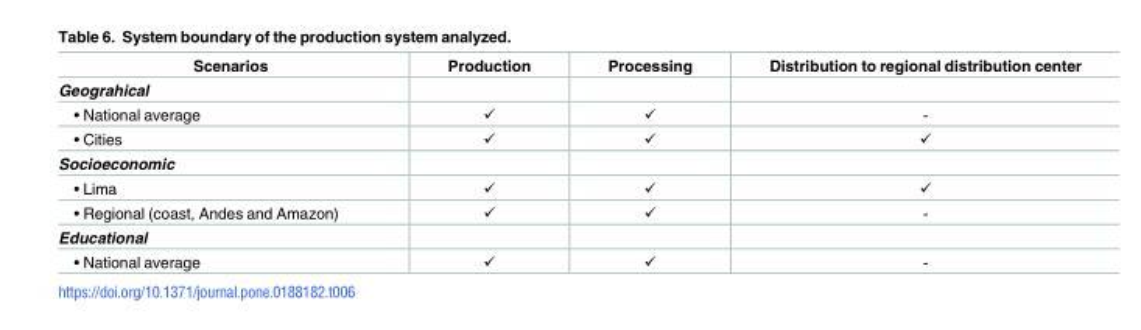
<table><thead><tr><td>Scenarios</td><td>Production</td><td>Processing</td><td>Distribution to regional distribution center</td></tr></thead><tbody><tr><td colspan="4">Geograhical</td></tr><tr><td>• National average</td><td>✓</td><td>✓</td><td>-</td></tr><tr><td>• Cities</td><td>✓</td><td>✓</td><td>✓</td></tr><tr><td colspan="4">Socioeconomic</td></tr><tr><td>• Lima</td><td>✓</td><td>✓</td><td>✓</td></tr><tr><td>• Regional (coast, Andes and Amazon)</td><td>✓</td><td>✓</td><td>-</td></tr><tr><td colspan="4">Educational</td></tr><tr><td>• National average</td><td>✓</td><td>✓</td><td>-</td></tr></tbody></table>